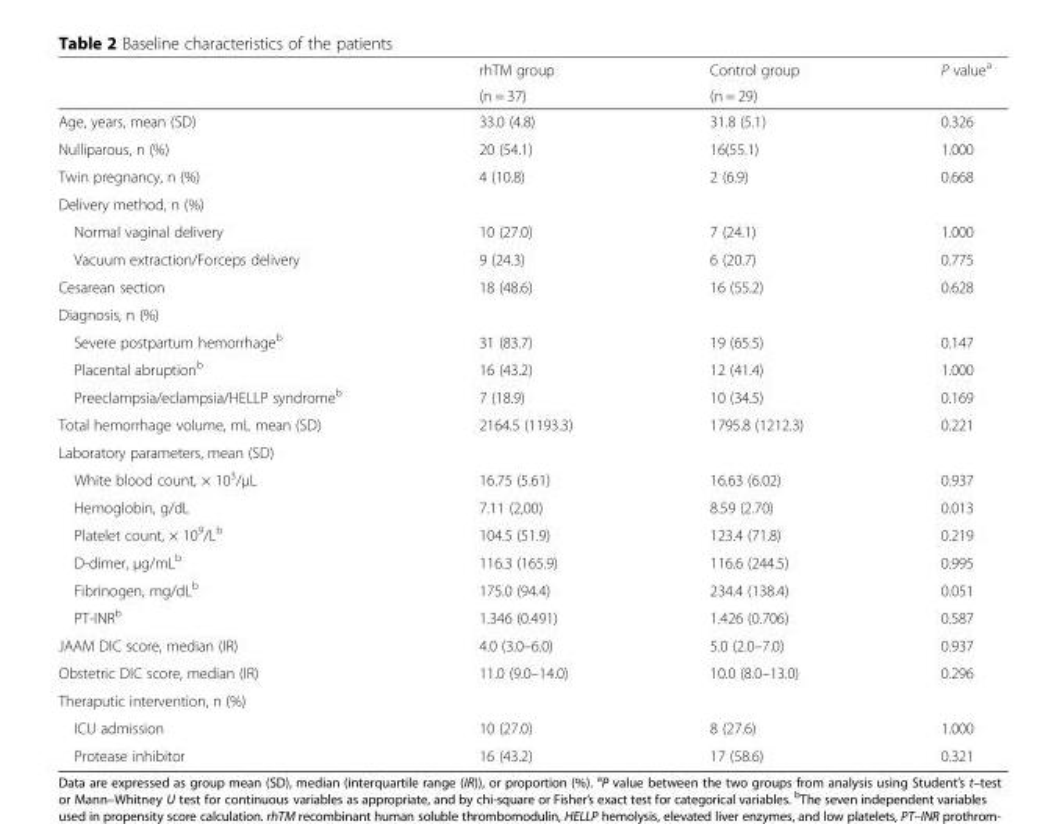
<table><thead><tr><td rowspan="2"></td><td rowspan="2">rhTM group (n = 37)</td><td rowspan="2">Control group (n = 29)</td><td rowspan="2">P value<sup>a</sup></td></tr><tr></tr></thead><tbody><tr><td>Age, years, mean (SD)</td><td>33.0 (4.8)</td><td>31.8 (5.1)</td><td>0.326</td></tr><tr><td>Nulliparous, n (%)</td><td>20 (54.1)</td><td>16(55.1)</td><td>1.000</td></tr><tr><td>Twin pregnancy, n (%)</td><td>4 (10.8)</td><td>2 (6.9)</td><td>0.668</td></tr><tr><td colspan="4">Delivery method, n (%)</td></tr><tr><td>Normal vaginal delivery</td><td>10 (27.0)</td><td>7 (24.1)</td><td>1.000</td></tr><tr><td>Vacuum extraction/Forceps delivery</td><td>9 (24.3)</td><td>6 (20.7)</td><td>0.775</td></tr><tr><td>Cesarean section</td><td>18 (48.6)</td><td>16 (55.2)</td><td>0.628</td></tr><tr><td colspan="4">Diagnosis, n (%)</td></tr><tr><td>Severe postpartum hemorrhage<sup>b</sup></td><td>31 (83.7)</td><td>19 (65.5)</td><td>0.147</td></tr><tr><td>Placental abruption<sup>b</sup></td><td>16 (43.2)</td><td>12 (41.4)</td><td>1.000</td></tr><tr><td>Preeclampsia/eclampsia/HELLP syndrome<sup>b</sup></td><td>7 (18.9)</td><td>10 (34.5)</td><td>0.169</td></tr><tr><td>Total hemorrhage volume, mL mean (SD)</td><td>2164.5 (1193.3)</td><td>1795.8 (1212.3)</td><td>0.221</td></tr><tr><td colspan="4">Laboratory parameters, mean (SD)</td></tr><tr><td>White blood count, × 10<sup>3</sup>/μL</td><td>16.75 (5.61)</td><td>16.63 (6.02)</td><td>0.937</td></tr><tr><td>Hemoglobin, g/dL</td><td>7.11 (2,00)</td><td>8.59 (2.70)</td><td>0.013</td></tr><tr><td>Platelet count, × 10<sup>9</sup>/L<sup>b</sup></td><td>104.5 (51.9)</td><td>123.4 (71.8)</td><td>0.219</td></tr><tr><td>D-dimer, μg/mL<sup>b</sup></td><td>116.3 (165.9)</td><td>116.6 (244.5)</td><td>0.995</td></tr><tr><td>Fibrinogen, mg/dL<sup>b</sup></td><td>175.0 (94.4)</td><td>234.4 (138.4)</td><td>0.051</td></tr><tr><td>PT-INR<sup>b</sup></td><td>1.346 (0.491)</td><td>1.426 (0.706)</td><td>0.587</td></tr><tr><td>JAAM DIC score, median (IR)</td><td>4.0 (3.0–6.0)</td><td>5.0 (2.0–7.0)</td><td>0.937</td></tr><tr><td>Obstetric DIC score, median (IR)</td><td>11.0 (9.0–14.0)</td><td>10.0 (8.0–13.0)</td><td>0.296</td></tr><tr><td colspan="4">Theraputic intervention, n (%)</td></tr><tr><td>ICU admission</td><td>10 (27.0)</td><td>8 (27.6)</td><td>1.000</td></tr><tr><td>Protease inhibitor</td><td>16 (43.2)</td><td>17 (58.6)</td><td>0.321</td></tr></tbody></table>